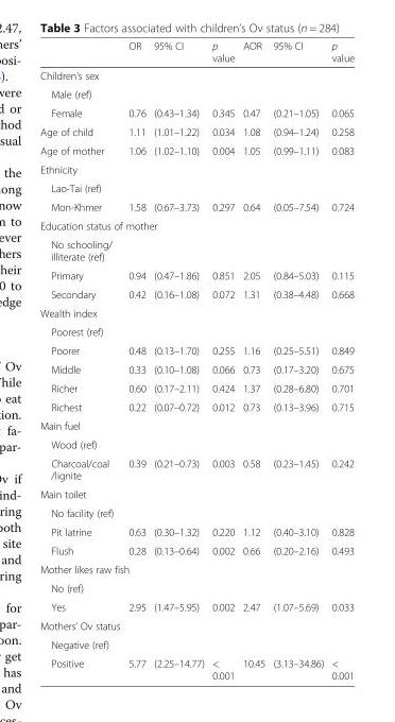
<table><thead><tr><td></td><td>OR</td><td>95% CI</td><td>p value</td><td>AOR</td><td>95% CI</td><td>p value</td></tr></thead><tbody><tr><td colspan="7">Children’s sex</td></tr><tr><td colspan="7">Male (ref)</td></tr><tr><td>Female</td><td>0.76</td><td>(0.43–1.34)</td><td>0.345</td><td>0.47</td><td>(0.21–1.05)</td><td>0.065</td></tr><tr><td>Age of child</td><td>1.11</td><td>(1.01–1.22)</td><td>0.034</td><td>1.08</td><td>(0.94–1.24)</td><td>0.258</td></tr><tr><td>Age of mother</td><td>1.06</td><td>(1.02–1.10)</td><td>0.004</td><td>1.05</td><td>(0.99–1.11)</td><td>0.083</td></tr><tr><td colspan="7">Ethnicity</td></tr><tr><td colspan="7">Lao-Tai (ref)</td></tr><tr><td>Mon-Khmer</td><td>1.58</td><td>(0.67–3.73)</td><td>0.297</td><td>0.64</td><td>(0.05–7.54)</td><td>0.724</td></tr><tr><td colspan="7">Education status of mother</td></tr><tr><td colspan="7">No schooling/ illiterate (ref)</td></tr><tr><td>Primary</td><td>0.94</td><td>(0.47–1.86)</td><td>0.851</td><td>2.05</td><td>(0.84–5.03)</td><td>0.115</td></tr><tr><td>Secondary</td><td>0.42</td><td>(0.16–1.08)</td><td>0.072</td><td>1.31</td><td>(0.38–4.48)</td><td>0.668</td></tr><tr><td colspan="7">Wealth index</td></tr><tr><td colspan="7">Poorest (ref)</td></tr><tr><td>Poorer</td><td>0.48</td><td>(0.13–1.70)</td><td>0.255</td><td>1.16</td><td>(0.25–5.51)</td><td>0.849</td></tr><tr><td>Middle</td><td>0.33</td><td>(0.10–1.08)</td><td>0.066</td><td>0.73</td><td>(0.17–3.20)</td><td>0.675</td></tr><tr><td>Richer</td><td>0.60</td><td>(0.17–2.11)</td><td>0.424</td><td>1.37</td><td>(0.28–6.80)</td><td>0.701</td></tr><tr><td>Richest</td><td>0.22</td><td>(0.07–0.72)</td><td>0.012</td><td>0.73</td><td>(0.13–3.96)</td><td>0.715</td></tr><tr><td colspan="7">Main fuel</td></tr><tr><td colspan="7">Wood (ref)</td></tr><tr><td>Charcoal/coal /lignite</td><td>0.39</td><td>(0.21–0.73)</td><td>0.003</td><td>0.58</td><td>(0.23–1.45)</td><td>0.242</td></tr><tr><td colspan="7">Main toilet</td></tr><tr><td colspan="7">No facility (ref)</td></tr><tr><td>Pit latrine</td><td>0.63</td><td>(0.30–1.32)</td><td>0.220</td><td>1.12</td><td>(0.40–3.10)</td><td>0.828</td></tr><tr><td>Flush</td><td>0.28</td><td>(0.13–0.64)</td><td>0.002</td><td>0.66</td><td>(0.20–2.16)</td><td>0.493</td></tr><tr><td colspan="7">Mother likes raw fish</td></tr><tr><td colspan="7">No (ref)</td></tr><tr><td>Yes</td><td>2.95</td><td>(1.47–5.95)</td><td>0.002</td><td>2.47</td><td>(1.07–5.69)</td><td>0.033</td></tr><tr><td colspan="7">Mothers’ Ov status</td></tr><tr><td colspan="7">Negative (ref)</td></tr><tr><td>Positive</td><td>5.77</td><td>(2.25–14.77)</td><td>&lt; 0.001</td><td>10.45</td><td>(3.13–34.86)</td><td>&lt; 0.001</td></tr></tbody></table>